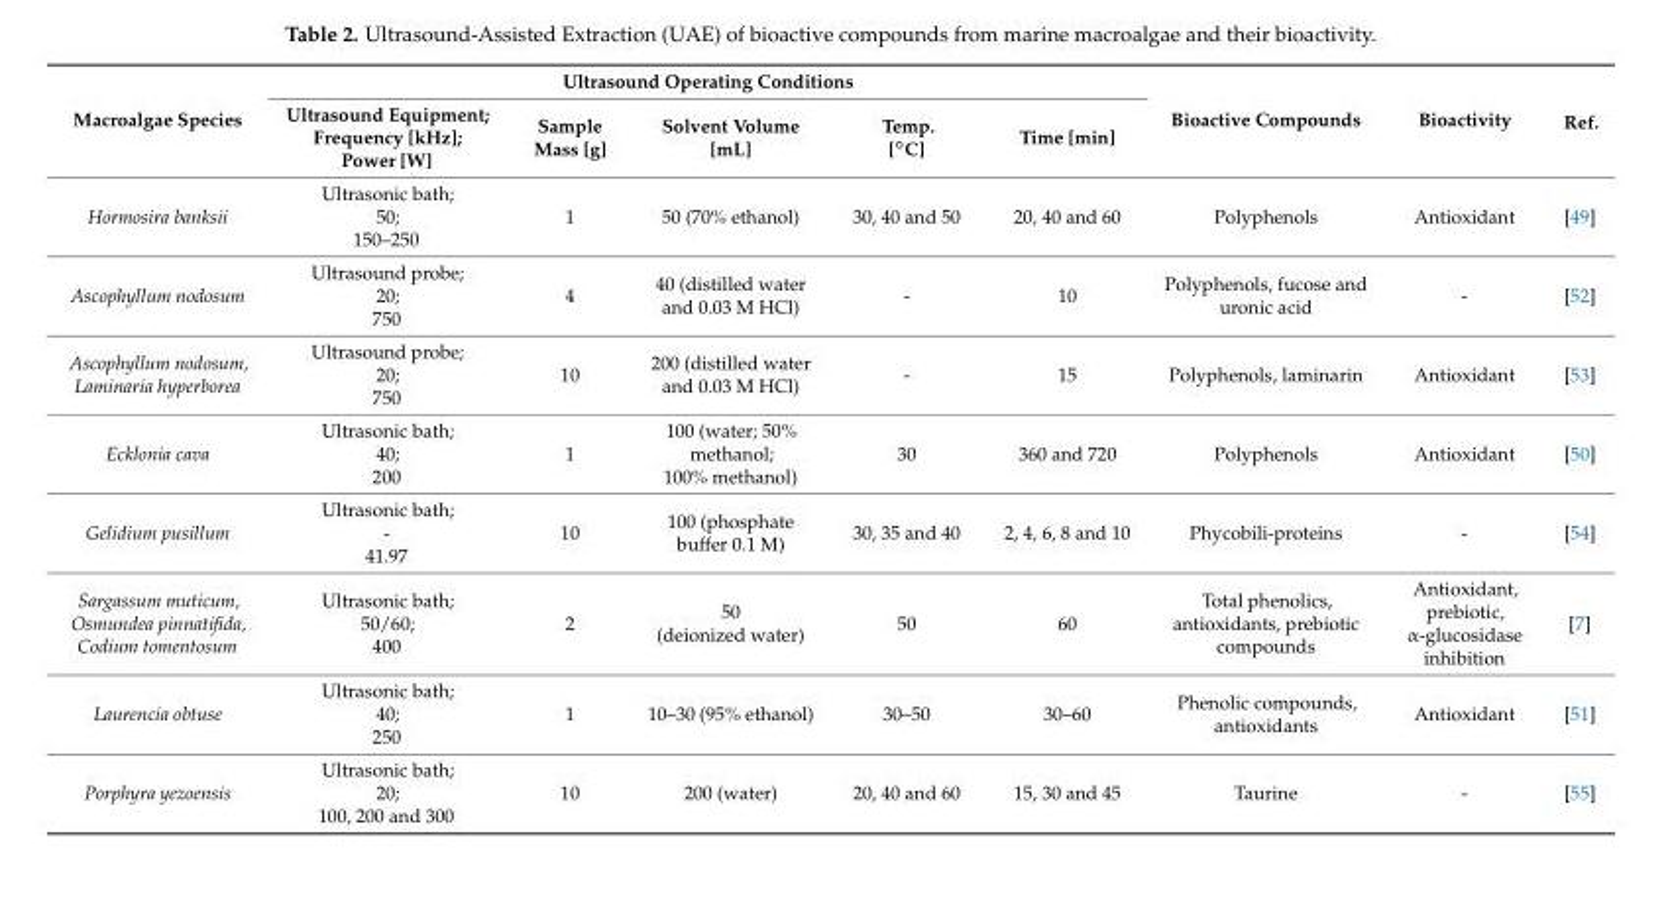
<table><thead><tr><td rowspan="2">Macroalgae Species</td><td colspan="5">Ultrasound Operating Conditions</td><td rowspan="2">Bioactive Compounds</td><td rowspan="2">Bioactivity</td><td rowspan="2">Ref.</td></tr><tr><td>Ultrasound Equipment; Frequency [kHz]; Power [W]</td><td>Sample Mass [g]</td><td>Solvent Volume [mL]</td><td>Temp. [◦C]</td><td>Time [min]</td></tr></thead><tbody><tr><td>Hormosira banksii</td><td>Ultrasonic bath; 50; 150–250</td><td>1</td><td>50 (70% ethanol)</td><td>30, 40 and 50</td><td>20, 40 and 60</td><td>Polyphenols</td><td>Antioxidant</td><td>[49]</td></tr><tr><td>Ascophyllum nodosum</td><td>Ultrasound probe; 20; 750</td><td>4</td><td>40 (distilled water and 0.03 M HCl)</td><td>-</td><td>10</td><td>Polyphenols, fucose and uronic acid</td><td>-</td><td>[52]</td></tr><tr><td>Ascophyllum nodosum, Laminaria hyperborea</td><td>Ultrasound probe; 20; 750</td><td>10</td><td>200 (distilled water and 0.03 M HCl)</td><td>-</td><td>15</td><td>Polyphenols, laminarin</td><td>Antioxidant</td><td>[53]</td></tr><tr><td>Ecklonia cava</td><td>Ultrasonic bath; 40; 200</td><td>1</td><td>100 (water; 50% methanol; 100% methanol)</td><td>30</td><td>360 and 720</td><td>Polyphenols</td><td>Antioxidant</td><td>[50]</td></tr><tr><td>Gelidium pusillum</td><td>Ultrasonic bath; - 41.97</td><td>10</td><td>100 (phosphate buffer 0.1 M)</td><td>30, 35 and 40</td><td>2, 4, 6, 8 and 10</td><td>Phycobili-proteins</td><td>-</td><td>[54]</td></tr><tr><td>Sargassum muticum, Osmundea pinnatifida, Codium tomentosum</td><td>Ultrasonic bath; 50/60; 400</td><td>2</td><td>50 (deionized water)</td><td>50</td><td>60</td><td>Total phenolics, antioxidants, prebiotic compounds</td><td>Antioxidant, prebiotic, α-glucosidase inhibition</td><td>[7]</td></tr><tr><td>Laurencia obtuse</td><td>Ultrasonic bath; 40; 250</td><td>1</td><td>10–30 (95% ethanol)</td><td>30–50</td><td>30–60</td><td>Phenolic compounds, antioxidants</td><td>Antioxidant</td><td>[51]</td></tr><tr><td>Porphyra yezoensis</td><td>Ultrasonic bath; 20; 100, 200 and 300</td><td>10</td><td>200 (water)</td><td>20, 40 and 60</td><td>15, 30 and 45</td><td>Taurine</td><td>-</td><td>[55]</td></tr></tbody></table>